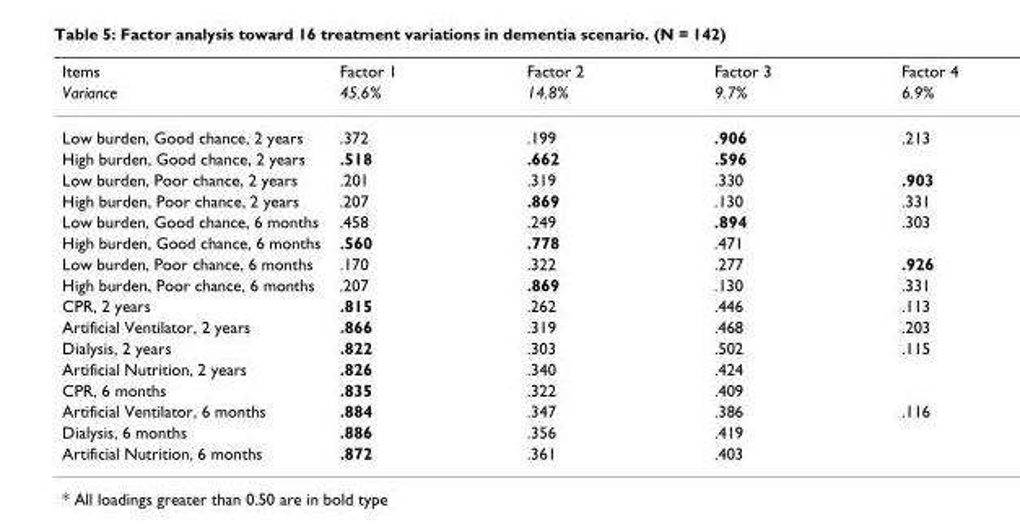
<table><thead><tr><td rowspan="2">Items Variance</td><td rowspan="2">Factor 1 45.6%</td><td rowspan="2">Factor 2 14.8%</td><td rowspan="2">Factor 3 9.7%</td><td rowspan="2">Factor 4 6.9%</td></tr><tr></tr></thead><tbody><tr><td>Low burden, Good chance, 2 years</td><td>.372</td><td>.199</td><td>.906</td><td>.213</td></tr><tr><td>High burden, Good chance, 2 years</td><td>.518</td><td>.662</td><td>.596</td><td></td></tr><tr><td>Low burden, Poor chance, 2 years</td><td>.201</td><td>.319</td><td>.330</td><td>.903</td></tr><tr><td>High burden, Poor chance, 2 years</td><td>.207</td><td>.869</td><td>.130</td><td>.331</td></tr><tr><td>Low burden, Good chance, 6 months</td><td>.458</td><td>.249</td><td>.894</td><td>.303</td></tr><tr><td>High burden, Good chance, 6 months</td><td>.560</td><td>.778</td><td>.471</td><td></td></tr><tr><td>Low burden, Poor chance, 6 months</td><td>.170</td><td>.322</td><td>.277</td><td>.926</td></tr><tr><td>High burden, Poor chance, 6 months</td><td>.207</td><td>.869</td><td>.130</td><td>.331</td></tr><tr><td>CPR, 2 years</td><td>.815</td><td>.262</td><td>.446</td><td>.113</td></tr><tr><td>Artificial Ventilator, 2 years</td><td>.866</td><td>.319</td><td>.468</td><td>.203</td></tr><tr><td>Dialysis, 2 years</td><td>.822</td><td>.303</td><td>.502</td><td>.115</td></tr><tr><td>Artificial Nutrition, 2 years</td><td>.826</td><td>.340</td><td>.424</td><td></td></tr><tr><td>CPR, 6 months</td><td>.835</td><td>.322</td><td>.409</td><td></td></tr><tr><td>Artificial Ventilator, 6 months</td><td>.884</td><td>.347</td><td>.386</td><td>.116</td></tr><tr><td>Dialysis, 6 months</td><td>.886</td><td>.356</td><td>.419</td><td></td></tr><tr><td>Artificial Nutrition, 6 months</td><td>.872</td><td>.361</td><td>.403</td><td></td></tr></tbody></table>